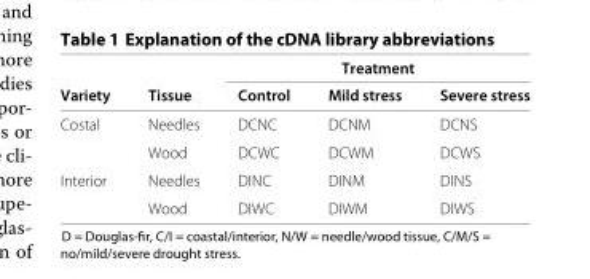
<table><thead><tr><td rowspan="2">Variety</td><td rowspan="2">Tissue</td><td colspan="3">Treatment</td></tr><tr><td>Control</td><td>Mild stress</td><td>Severe stress</td></tr></thead><tbody><tr><td rowspan="2">Costal</td><td>Needles</td><td>DCNC</td><td>DCNM</td><td>DCNS</td></tr><tr><td>Wood</td><td>DCWC</td><td>DCWM</td><td>DCWS</td></tr><tr><td rowspan="2">Interior</td><td>Needles</td><td>DINC</td><td>DINM</td><td>DINS</td></tr><tr><td>Wood</td><td>DIWC</td><td>DIWM</td><td>DIWS</td></tr></tbody></table>